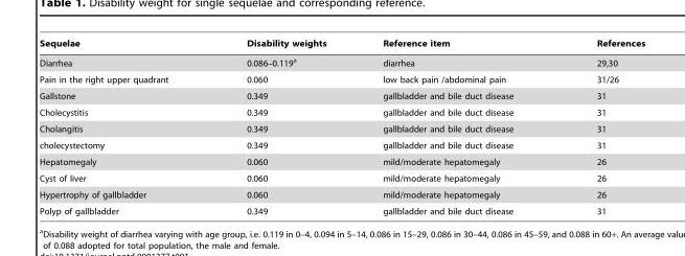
<table><thead><tr><td>Sequelae</td><td>Disability weights</td><td>Reference item</td><td>References</td></tr></thead><tbody><tr><td>Diarrhea</td><td>0.086–0.119<sup>a</sup></td><td>diarrhea</td><td>29,30</td></tr><tr><td>Pain in the right upper quadrant</td><td>0.060</td><td>low back pain /abdominal pain</td><td>31/26</td></tr><tr><td>Gallstone</td><td>0.349</td><td>gallbladder and bile duct disease</td><td>31</td></tr><tr><td>Cholecystitis</td><td>0.349</td><td>gallbladder and bile duct disease</td><td>31</td></tr><tr><td>Cholangitis</td><td>0.349</td><td>gallbladder and bile duct disease</td><td>31</td></tr><tr><td>cholecystectomy</td><td>0.349</td><td>gallbladder and bile duct disease</td><td>31</td></tr><tr><td>Hepatomegaly</td><td>0.060</td><td>mild/moderate hepatomegaly</td><td>26</td></tr><tr><td>Cyst of liver</td><td>0.060</td><td>mild/moderate hepatomegaly</td><td>26</td></tr><tr><td>Hypertrophy of gallbladder</td><td>0.060</td><td>mild/moderate hepatomegaly</td><td>26</td></tr><tr><td>Polyp of gallbladder</td><td>0.349</td><td>gallbladder and bile duct disease</td><td>31</td></tr></tbody></table>